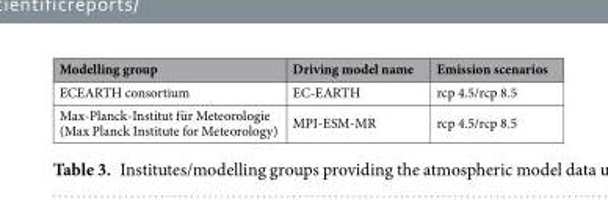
<table><thead><tr><td>Modelling group</td><td>Driving model name</td><td>Emission scenarios</td></tr></thead><tbody><tr><td>ECEARTH consortium</td><td>EC-EARTH</td><td>rcp 4.5/rcp 8.5</td></tr><tr><td>Max-Planck-Institut für Meteorologie (Max Planck Institute for Meteorology)</td><td>MPI-ESM-MR</td><td>rcp 4.5/rcp 8.5</td></tr></tbody></table>